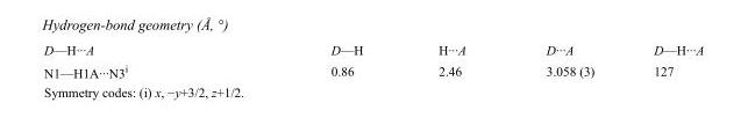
<table><tbody><tr><td>D—H···A</td><td>D—H</td><td>H···A</td><td>D···A</td><td>D—H···A</td></tr><tr><td>N1—H1A···N3<sup>i</sup></td><td>0.86</td><td>2.46</td><td>3.058 (3)</td><td>127</td></tr></tbody></table>